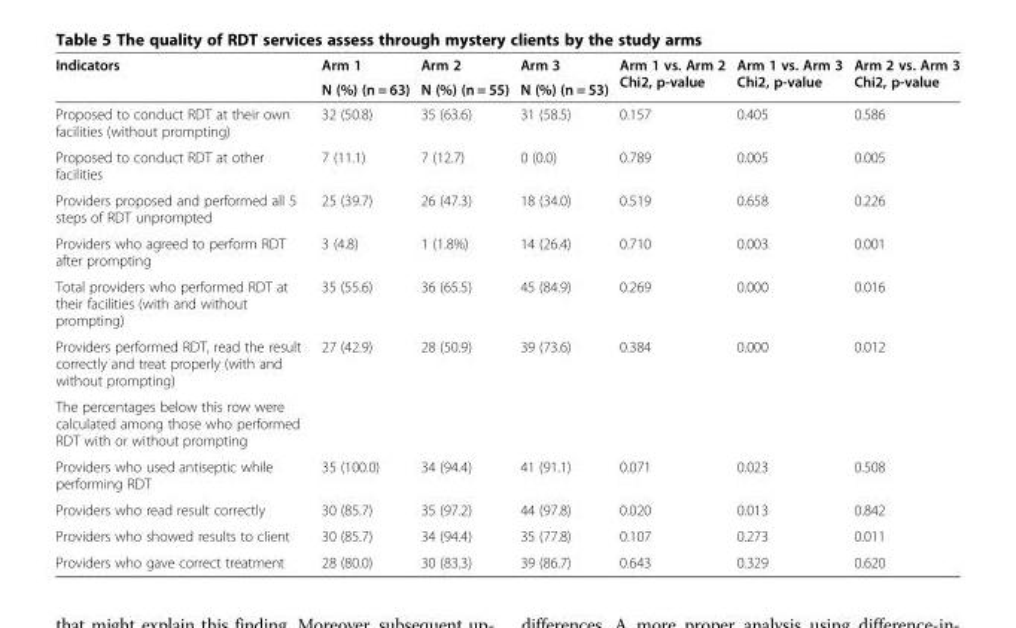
<table><thead><tr><td rowspan="2">Indicators</td><td rowspan="2">Arm 1 N (%) (n = 63)</td><td rowspan="2">Arm 2 N (%) (n = 55)</td><td rowspan="2">Arm 3 N (%) (n = 53)</td><td rowspan="2">Arm 1 vs. Arm 2 Chi2, p-value</td><td rowspan="2">Arm 1 vs. Arm 3 Chi2, p-value</td><td rowspan="2">Arm 2 vs. Arm 3 Chi2, p-value</td></tr><tr></tr></thead><tbody><tr><td>Proposed to conduct RDT at their own facilities (without prompting)</td><td>32 (50.8)</td><td>35 (63.6)</td><td>31 (58.5)</td><td>0.157</td><td>0.405</td><td>0.586</td></tr><tr><td>Proposed to conduct RDT at other facilities</td><td>7 (11.1)</td><td>7 (12.7)</td><td>0 (0.0)</td><td>0.789</td><td>0.005</td><td>0.005</td></tr><tr><td>Providers proposed and performed all 5 steps of RDT unprompted</td><td>25 (39.7)</td><td>26 (47.3)</td><td>18 (34.0)</td><td>0.519</td><td>0.658</td><td>0.226</td></tr><tr><td>Providers who agreed to perform RDT after prompting</td><td>3 (4.8)</td><td>1 (1.8%)</td><td>14 (26.4)</td><td>0.710</td><td>0.003</td><td>0.001</td></tr><tr><td>Total providers who performed RDT at their facilities (with and without prompting)</td><td>35 (55.6)</td><td>36 (65.5)</td><td>45 (84.9)</td><td>0.269</td><td>0.000</td><td>0.016</td></tr><tr><td>Providers performed RDT, read the result correctly and treat properly (with and without prompting)</td><td>27 (42.9)</td><td>28 (50.9)</td><td>39 (73.6)</td><td>0.384</td><td>0.000</td><td>0.012</td></tr><tr><td colspan="7">The percentages below this row were calculated among those who performed RDT with or without prompting</td></tr><tr><td>Providers who used antiseptic while performing RDT</td><td>35 (100.0)</td><td>34 (94.4)</td><td>41 (91.1)</td><td>0.071</td><td>0.023</td><td>0.508</td></tr><tr><td>Providers who read result correctly</td><td>30 (85.7)</td><td>35 (97.2)</td><td>44 (97.8)</td><td>0.020</td><td>0.013</td><td>0.842</td></tr><tr><td>Providers who showed results to client</td><td>30 (85.7)</td><td>34 (94.4)</td><td>35 (77.8)</td><td>0.107</td><td>0.273</td><td>0.011</td></tr><tr><td>Providers who gave correct treatment</td><td>28 (80.0)</td><td>30 (83.3)</td><td>39 (86.7)</td><td>0.643</td><td>0.329</td><td>0.620</td></tr></tbody></table>